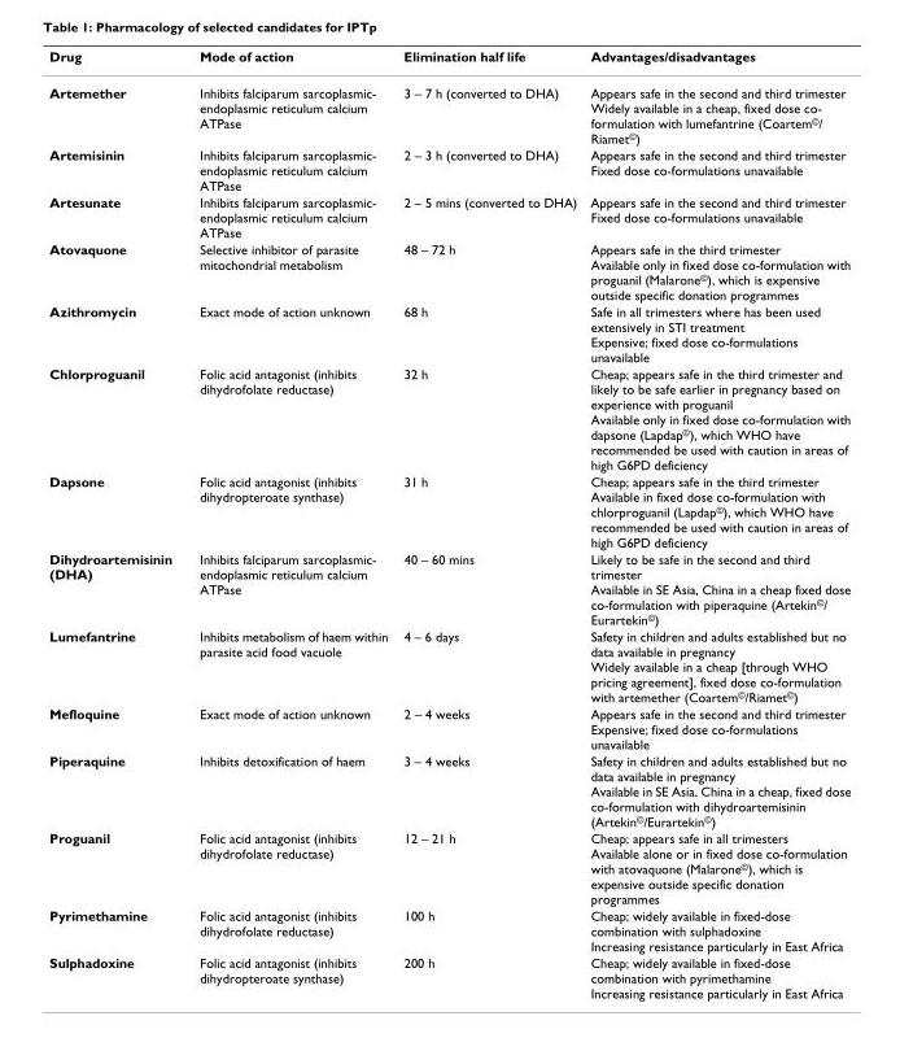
<table><thead><tr><td>Drug</td><td>Mode of action</td><td>Elimination half life</td><td>Advantages/disadvantages</td></tr></thead><tbody><tr><td>Artemether</td><td>Inhibits falciparum sarcoplasmic- endoplasmic reticulum calcium ATPase</td><td>3 – 7 h (converted to DHA)</td><td>Appears safe in the second and third trimester Widely available in a cheap, fixed dose co- formulation with lumefantrine (Coartem<sup>©</sup>/ Riamet<sup>©</sup>)</td></tr><tr><td>Artemisinin</td><td>Inhibits falciparum sarcoplasmic- endoplasmic reticulum calcium ATPase</td><td>2 – 3 h (converted to DHA)</td><td>Appears safe in the second and third trimester Fixed dose co-formulations unavailable</td></tr><tr><td>Artesunate</td><td>Inhibits falciparum sarcoplasmic- endoplasmic reticulum calcium ATPase</td><td>2 – 5 mins (converted to DHA)</td><td>Appears safe in the second and third trimester Fixed dose co-formulations unavailable</td></tr><tr><td>Atovaquone</td><td>Selective inhibitor of parasite mitochondrial metabolism</td><td>48 – 72 h</td><td>Appears safe in the third trimester Available only in fixed dose co-formulation with proguanil (Malarone<sup>©</sup>), which is expensive outside specific donation programmes</td></tr><tr><td>Azithromycin</td><td>Exact mode of action unknown</td><td>68 h</td><td>Safe in all trimesters where has been used extensively in STI treatment Expensive; fixed dose co-formulations unavailable</td></tr><tr><td>Chlorproguanil</td><td>Folic acid antagonist (inhibits dihydrofolate reductase)</td><td>32 h</td><td>Cheap; appears safe in the third trimester and likely to be safe earlier in pregnancy based on experience with proguanil Available only in fixed dose co-formulation with dapsone (Lapdap<sup>©</sup>), which WHO have recommended be used with caution in areas of high G6PD deficiency</td></tr><tr><td>Dapsone</td><td>Folic acid antagonist (inhibits dihydropteroate synthase)</td><td>31 h</td><td>Cheap; appears safe in the third trimester Available in fixed dose co-formulation with chlorproguanil (Lapdap<sup>©</sup>), which WHO have recommended be used with caution in areas of high G6PD deficiency</td></tr><tr><td>Dihydroartemisinin (DHA)</td><td>Inhibits falciparum sarcoplasmic- endoplasmic reticulum calcium ATPase</td><td>40 – 60 mins</td><td>Likely to be safe in the second and third trimester Available in SE Asia, China in a cheap fixed dose co-formulation with piperaquine (Artekin<sup>©</sup>/ Eurartekin<sup>©</sup>)</td></tr><tr><td>Lumefantrine</td><td>Inhibits metabolism of haem within parasite acid food vacuole</td><td>4 – 6 days</td><td>Safety in children and adults established but no data available in pregnancy Widely available in a cheap [through WHO pricing agreement], fixed dose co-formulation with artemether (Coartem<sup>©</sup>/Riamet<sup>©</sup>)</td></tr><tr><td>Mefloquine</td><td>Exact mode of action unknown</td><td>2 – 4 weeks</td><td>Appears safe in the second and third trimester Expensive; fixed dose co-formulations unavailable</td></tr><tr><td>Piperaquine</td><td>Inhibits detoxification of haem</td><td>3 – 4 weeks</td><td>Safety in children and adults established but no data available in pregnancy Available in SE Asia, China in a cheap, fixed dose co-formulation with dihydroartemisinin (Artekin<sup>©</sup>/Eurartekin<sup>©</sup>)</td></tr><tr><td>Proguanil</td><td>Folic acid antagonist (inhibits dihydrofolate reductase)</td><td>12 – 21 h</td><td>Cheap; appears safe in all trimesters Available alone or in fixed dose co-formulation with atovaquone (Malarone<sup>©</sup>), which is expensive outside specific donation programmes</td></tr><tr><td>Pyrimethamine</td><td>Folic acid antagonist (inhibits dihydrofolate reductase)</td><td>100 h</td><td>Cheap; widely available in fixed-dose combination with sulphadoxine Increasing resistance particularly in East Africa</td></tr><tr><td>Sulphadoxine</td><td>Folic acid antagonist (inhibits dihydropteroate synthase)</td><td>200 h</td><td>Cheap; widely available in fixed-dose combination with pyrimethamine Increasing resistance particularly in East Africa</td></tr></tbody></table>